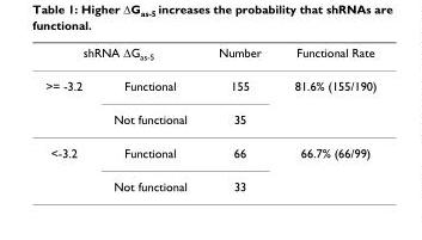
<table><thead><tr><td colspan="2">shRNA ΔGas-5</td><td rowspan="2">Number 155</td><td rowspan="2">Functional Rate 81.6% (155/190)</td></tr><tr><td>&gt;= -3.2</td><td>Functional</td></tr></thead><tbody><tr><td></td><td>Not functional</td><td>35</td><td></td></tr><tr><td rowspan="2">&lt;-3.2</td><td>Functional</td><td>66</td><td>66.7% (66/99)</td></tr><tr><td>Not functional</td><td>33</td><td></td></tr></tbody></table>